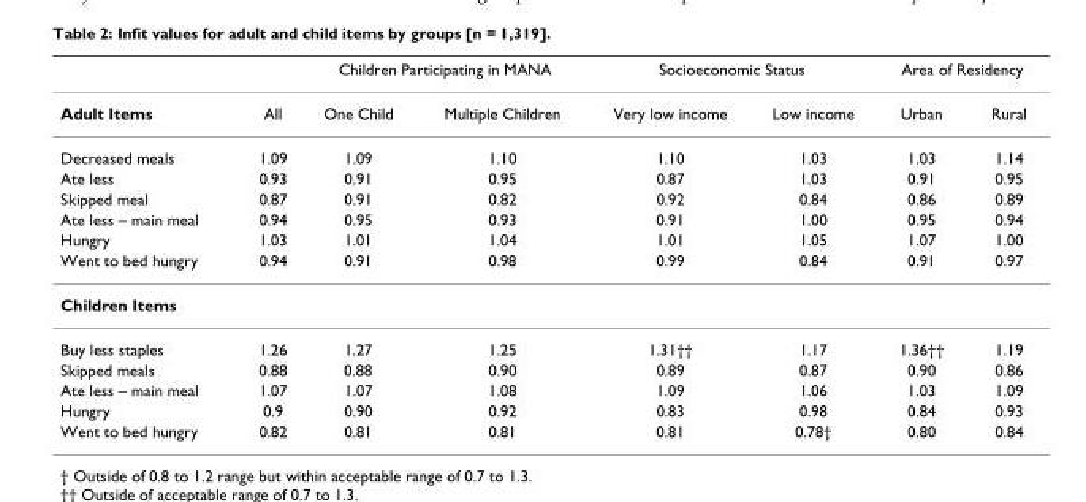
<table><thead><tr><td rowspan="2">Adult Items</td><td rowspan="2">All</td><td colspan="2">Children Participating in MANA</td><td colspan="2">Socioeconomic Status</td><td colspan="2">Area of Residency</td></tr><tr><td>One Child</td><td>Multiple Children</td><td>Very low income</td><td>Low income</td><td>Urban</td><td>Rural</td></tr></thead><tbody><tr><td>Decreased meals</td><td>1.09</td><td>1.09</td><td>1.10</td><td>1.10</td><td>1.03</td><td>1.03</td><td>1.14</td></tr><tr><td>Ate less</td><td>0.93</td><td>0.91</td><td>0.95</td><td>0.87</td><td>1.03</td><td>0.91</td><td>0.95</td></tr><tr><td>Skipped meal</td><td>0.87</td><td>0.91</td><td>0.82</td><td>0.92</td><td>0.84</td><td>0.86</td><td>0.89</td></tr><tr><td>Ate less – main meal</td><td>0.94</td><td>0.95</td><td>0.93</td><td>0.91</td><td>1.00</td><td>0.95</td><td>0.94</td></tr><tr><td>Hungry</td><td>1.03</td><td>1.01</td><td>1.04</td><td>1.01</td><td>1.05</td><td>1.07</td><td>1.00</td></tr><tr><td>Went to bed hungry</td><td>0.94</td><td>0.91</td><td>0.98</td><td>0.99</td><td>0.84</td><td>0.91</td><td>0.97</td></tr><tr><td colspan="8">Children Items</td></tr><tr><td>Buy less staples</td><td>1.26</td><td>1.27</td><td>1.25</td><td>1.31††</td><td>1.17</td><td>1.36††</td><td>1.19</td></tr><tr><td>Skipped meals</td><td>0.88</td><td>0.88</td><td>0.90</td><td>0.89</td><td>0.87</td><td>0.90</td><td>0.86</td></tr><tr><td>Ate less – main meal</td><td>1.07</td><td>1.07</td><td>1.08</td><td>1.09</td><td>1.06</td><td>1.03</td><td>1.09</td></tr><tr><td>Hungry</td><td>0.9</td><td>0.90</td><td>0.92</td><td>0.83</td><td>0.98</td><td>0.84</td><td>0.93</td></tr><tr><td>Went to bed hungry</td><td>0.82</td><td>0.81</td><td>0.81</td><td>0.81</td><td>0.78†</td><td>0.80</td><td>0.84</td></tr></tbody></table>